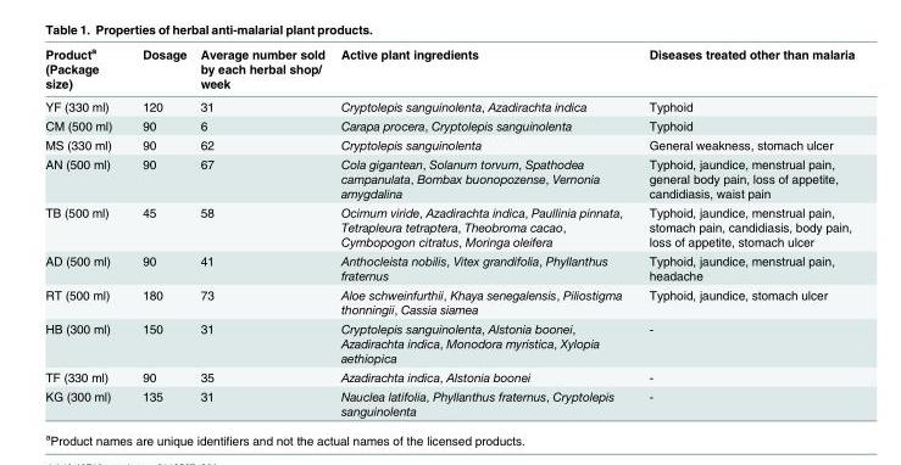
<table><thead><tr><td>Product<sup>a</sup> (Package size)</td><td>Dosage</td><td>Average number sold by each herbal shop/ week</td><td>Active plant ingredients</td><td>Diseases treated other than malaria</td></tr></thead><tbody><tr><td>YF (330 ml)</td><td>120</td><td>31</td><td>Cryptolepis sanguinolenta, Azadirachta indica</td><td>Typhoid</td></tr><tr><td>CM (500 ml)</td><td>90</td><td>6</td><td>Carapa procera, Cryptolepis sanguinolenta</td><td>Typhoid</td></tr><tr><td>MS (330 ml)</td><td>90</td><td>62</td><td>Cryptolepis sanguinolenta</td><td>General weakness, stomach ulcer</td></tr><tr><td>AN (500 ml)</td><td>90</td><td>67</td><td>Cola gigantean, Solanum torvum, Spathodea campanulata, Bombax buonopozense, Vernonia amygdalina</td><td>Typhoid, jaundice, menstrual pain, general body pain, loss of appetite, candidiasis, waist pain</td></tr><tr><td>TB (500 ml)</td><td>45</td><td>58</td><td>Ocimum viride, Azadirachta indica, Paullinia pinnata, Tetrapleura tetraptera, Theobroma cacao, Cymbopogon citratus, Moringa oleifera</td><td>Typhoid, jaundice, menstrual pain, stomach pain, candidiasis, body pain, loss of appetite, stomach ulcer</td></tr><tr><td>AD (500 ml)</td><td>90</td><td>41</td><td>Anthocleista nobilis, Vitex grandifolia, Phyllanthus fraternus</td><td>Typhoid, jaundice, menstrual pain, headache</td></tr><tr><td>RT (500 ml)</td><td>180</td><td>73</td><td>Aloe schweinfurthii, Khaya senegalensis, Piliostigma thonningii, Cassia siamea</td><td>Typhoid, jaundice, stomach ulcer</td></tr><tr><td>HB (300 ml)</td><td>150</td><td>31</td><td>Cryptolepis sanguinolenta, Alstonia boonei, Azadirachta indica, Monodora myristica, Xylopia aethiopica</td><td>-</td></tr><tr><td>TF (330 ml)</td><td>90</td><td>35</td><td>Azadirachta indica, Alstonia boonei</td><td>-</td></tr><tr><td>KG (300 ml)</td><td>135</td><td>31</td><td>Nauclea latifolia, Phyllanthus fraternus, Cryptolepis sanguinolenta</td><td>-</td></tr></tbody></table>